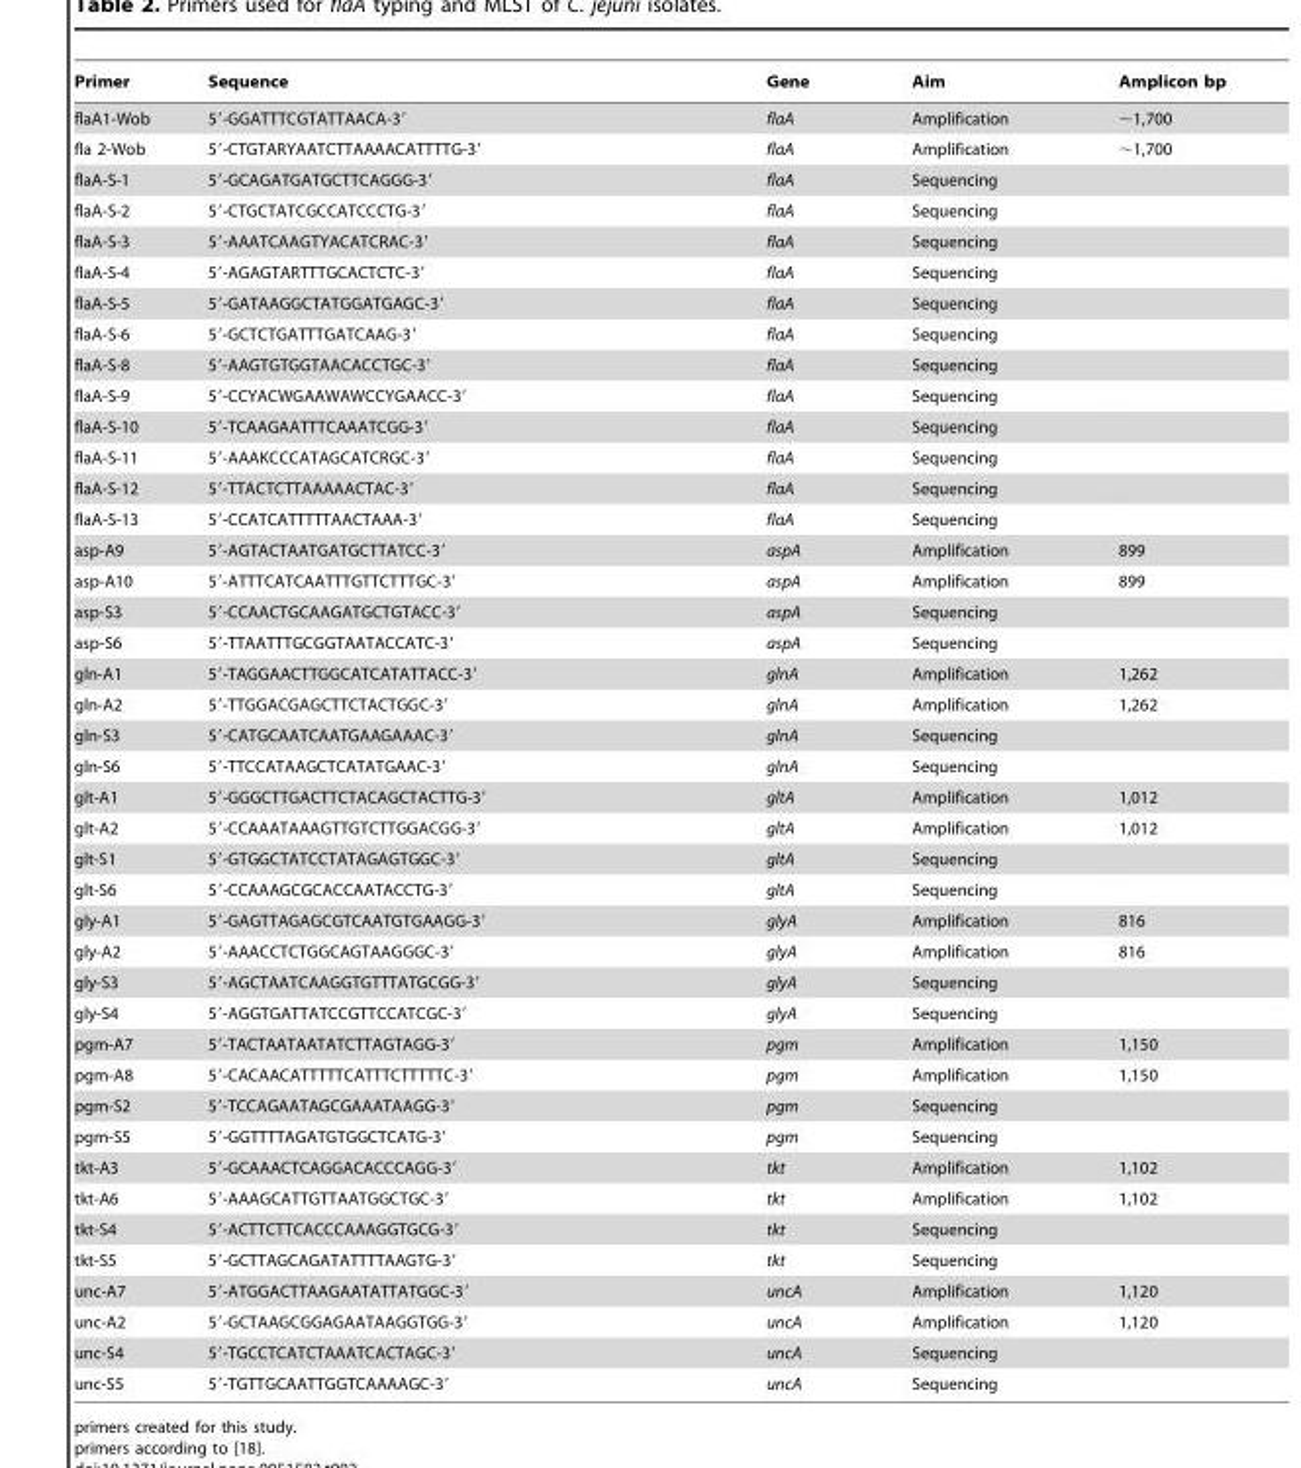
<table><thead><tr><td>Primer</td><td>Sequence</td><td>Gene</td><td>Aim</td><td>Amplicon bp</td></tr></thead><tbody><tr><td>flaA1-Wob</td><td>5′-GGATTTCGTATTAACA-3′</td><td>flaA</td><td>Amplification</td><td>∼1,700</td></tr><tr><td>fla 2-Wob</td><td>5′-CTGTARYAATCTTAAAACATTTTG-3′</td><td>flaA</td><td>Amplification</td><td>∼1,700</td></tr><tr><td>flaA-S-1</td><td>5′-GCAGATGATGCTTCAGGG-3′</td><td>flaA</td><td>Sequencing</td><td></td></tr><tr><td>flaA-S-2</td><td>5′-CTGCTATCGCCATCCCTG-3′</td><td>flaA</td><td>Sequencing</td><td></td></tr><tr><td>flaA-S-3</td><td>5′-AAATCAAGTYACATCRAC-3′</td><td>flaA</td><td>Sequencing</td><td></td></tr><tr><td>flaA-S-4</td><td>5′-AGAGTARTTTGCACTCTC-3′</td><td>flaA</td><td>Sequencing</td><td></td></tr><tr><td>flaA-S-5</td><td>5′-GATAAGGCTATGGATGAGC-3′</td><td>flaA</td><td>Sequencing</td><td></td></tr><tr><td>flaA-S-6</td><td>5′-GCTCTGATTTGATCAAG-3′</td><td>flaA</td><td>Sequencing</td><td></td></tr><tr><td>flaA-S-8</td><td>5′-AAGTGTGGTAACACCTGC-3′</td><td>flaA</td><td>Sequencing</td><td></td></tr><tr><td>flaA-S-9</td><td>5′-CCYACWGAAWAWCCYGAACC-3′</td><td>flaA</td><td>Sequencing</td><td></td></tr><tr><td>flaA-S-10</td><td>5′-TCAAGAATTTCAAATCGG-3′</td><td>flaA</td><td>Sequencing</td><td></td></tr><tr><td>flaA-S-11</td><td>5′-AAAKCCCATAGCATCRGC-3′</td><td>flaA</td><td>Sequencing</td><td></td></tr><tr><td>flaA-S-12</td><td>5′-TTACTCTTAAAAACTAC-3′</td><td>flaA</td><td>Sequencing</td><td></td></tr><tr><td>flaA-S-13</td><td>5′-CCATCATTTTTAACTAAA-3′</td><td>flaA</td><td>Sequencing</td><td></td></tr><tr><td>asp-A9</td><td>5′-AGTACTAATGATGCTTATCC-3′</td><td>aspA</td><td>Amplification</td><td>899</td></tr><tr><td>asp-A10</td><td>5′-ATTTCATCAATTTGTTCTTTGC-3′</td><td>aspA</td><td>Amplification</td><td>899</td></tr><tr><td>asp-S3</td><td>5′-CCAACTGCAAGATGCTGTACC-3′</td><td>aspA</td><td>Sequencing</td><td></td></tr><tr><td>asp-S6</td><td>5′-TTAATTTGCGGTAATACCATC-3′</td><td>aspA</td><td>Sequencing</td><td></td></tr><tr><td>gln-A1</td><td>5′-TAGGAACTTGGCATCATATTACC-3′</td><td>glnA</td><td>Amplification</td><td>1,262</td></tr><tr><td>gln-A2</td><td>5′-TTGGACGAGCTTCTACTGGC-3′</td><td>glnA</td><td>Amplification</td><td>1,262</td></tr><tr><td>gln-S3</td><td>5′-CATGCAATCAATGAAGAAAC-3′</td><td>glnA</td><td>Sequencing</td><td></td></tr><tr><td>gln-S6</td><td>5′-TTCCATAAGCTCATATGAAC-3′</td><td>glnA</td><td>Sequencing</td><td></td></tr><tr><td>glt-A1</td><td>5′-GGGCTTGACTTCTACAGCTACTTG-3′</td><td>gltA</td><td>Amplification</td><td>1,012</td></tr><tr><td>glt-A2</td><td>5′-CCAAATAAAGTTGTCTTGGACGG-3′</td><td>gltA</td><td>Amplification</td><td>1,012</td></tr><tr><td>glt-S1</td><td>5′-GTGGCTATCCTATAGAGTGGC-3′</td><td>gltA</td><td>Sequencing</td><td></td></tr><tr><td>glt-S6</td><td>5′-CCAAAGCGCACCAATACCTG-3′</td><td>gltA</td><td>Sequencing</td><td></td></tr><tr><td>gly-A1</td><td>5′-GAGTTAGAGCGTCAATGTGAAGG-3′</td><td>glyA</td><td>Amplification</td><td>816</td></tr><tr><td>gly-A2</td><td>5′-AAACCTCTGGCAGTAAGGGC-3′</td><td>glyA</td><td>Amplification</td><td>816</td></tr><tr><td>gly-S3</td><td>5′-AGCTAATCAAGGTGTTTATGCGG-3′</td><td>glyA</td><td>Sequencing</td><td></td></tr><tr><td>gly-S4</td><td>5′-AGGTGATTATCCGTTCCATCGC-3′</td><td>glyA</td><td>Sequencing</td><td></td></tr><tr><td>pgm-A7</td><td>5′-TACTAATAATATCTTAGTAGG-3′</td><td>pgm</td><td>Amplification</td><td>1,150</td></tr><tr><td>pgm-A8</td><td>5′-CACAACATTTTTCATTTCTTTTTC-3′</td><td>pgm</td><td>Amplification</td><td>1,150</td></tr><tr><td>pgm-S2</td><td>5′-TCCAGAATAGCGAAATAAGG-3′</td><td>pgm</td><td>Sequencing</td><td></td></tr><tr><td>pgm-S5</td><td>5′-GGTTTTAGATGTGGCTCATG-3′</td><td>pgm</td><td>Sequencing</td><td></td></tr><tr><td>tkt-A3</td><td>5′-GCAAACTCAGGACACCCAGG-3′</td><td>tkt</td><td>Amplification</td><td>1,102</td></tr><tr><td>tkt-A6</td><td>5′-AAAGCATTGTTAATGGCTGC-3′</td><td>tkt</td><td>Amplification</td><td>1,102</td></tr><tr><td>tkt-S4</td><td>5′-ACTTCTTCACCCAAAGGTGCG-3′</td><td>tkt</td><td>Sequencing</td><td></td></tr><tr><td>tkt-S5</td><td>5′-GCTTAGCAGATATTTTAAGTG-3′</td><td>tkt</td><td>Sequencing</td><td></td></tr><tr><td>unc-A7</td><td>5′-ATGGACTTAAGAATATTATGGC-3′</td><td>uncA</td><td>Amplification</td><td>1,120</td></tr><tr><td>unc-A2</td><td>5′-GCTAAGCGGAGAATAAGGTGG-3′</td><td>uncA</td><td>Amplification</td><td>1,120</td></tr><tr><td>unc-S4</td><td>5′-TGCCTCATCTAAATCACTAGC-3′</td><td>uncA</td><td>Sequencing</td><td></td></tr><tr><td>unc-S5</td><td>5′-TGTTGCAATTGGTCAAAAGC-3′</td><td>uncA</td><td>Sequencing</td><td></td></tr></tbody></table>